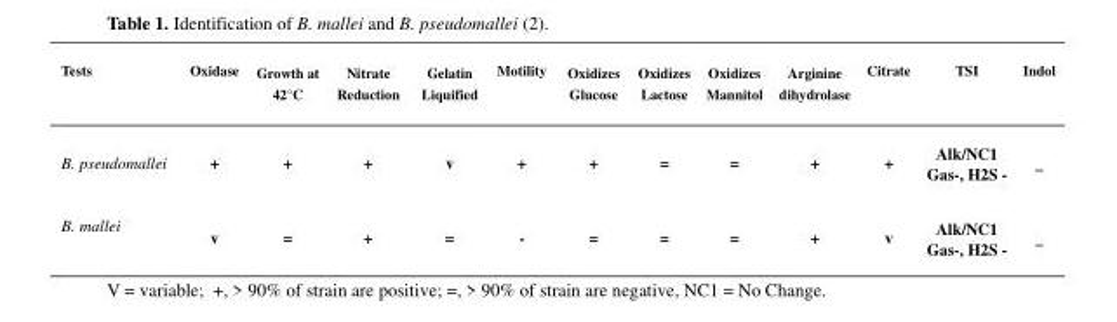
<table><thead><tr><td>Tests</td><td>Oxidase</td><td>Growth at 42°C</td><td>Nitrate Reduction</td><td>Gelatin Liquified</td><td>Motility</td><td>Oxidizes Glucose</td><td>Oxidizes Lactose</td><td>Oxidizes Mannitol</td><td>Arginine dihydrolase</td><td>Citrate</td><td>TSI</td><td>Indol</td></tr></thead><tbody><tr><td>B. pseudomallei</td><td>+</td><td>+</td><td>+</td><td>v</td><td>+</td><td>+</td><td>=</td><td>=</td><td>+</td><td>+</td><td>Alk/NC1 Gas-, H2S -</td><td>_</td></tr><tr><td>B. mallei</td><td>v</td><td>=</td><td>+</td><td>=</td><td>-</td><td>=</td><td>=</td><td>=</td><td>+</td><td>v</td><td>Alk/NC1 Gas-, H2S -</td><td>_</td></tr></tbody></table>